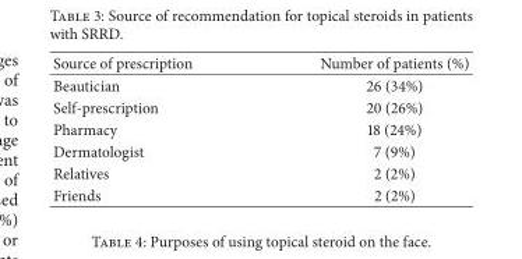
<table><thead><tr><td>Source of prescription</td><td>Number of patients (%)</td></tr></thead><tbody><tr><td>Beautician</td><td>26 (34%)</td></tr><tr><td>Self-prescription</td><td>20 (26%)</td></tr><tr><td>Pharmacy</td><td>18 (24%)</td></tr><tr><td>Dermatologist</td><td>7 (9%)</td></tr><tr><td>Relatives</td><td>2 (2%)</td></tr><tr><td>Friends</td><td>2 (2%)</td></tr></tbody></table>